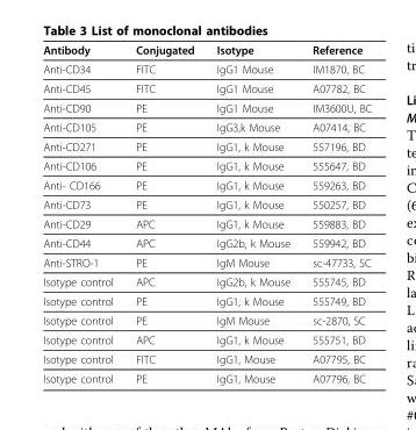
<table><thead><tr><td>Antibody</td><td>Conjugated</td><td>Isotype</td><td>Reference</td></tr></thead><tbody><tr><td>Anti-CD34</td><td>FITC</td><td>IgG1 Mouse</td><td>IM1870, BC</td></tr><tr><td>Anti-CD45</td><td>FITC</td><td>IgG1 Mouse</td><td>A07782, BC</td></tr><tr><td>Anti-CD90</td><td>PE</td><td>IgG1 Mouse</td><td>IM3600U, BC</td></tr><tr><td>Anti-CD105</td><td>PE</td><td>IgG3,k Mouse</td><td>A07414, BC</td></tr><tr><td>Anti-CD271</td><td>PE</td><td>IgG1, k Mouse</td><td>557196, BD</td></tr><tr><td>Anti-CD106</td><td>PE</td><td>IgG1, k Mouse</td><td>555647, BD</td></tr><tr><td>Anti- CD166</td><td>PE</td><td>IgG1, k Mouse</td><td>559263, BD</td></tr><tr><td>Anti-CD73</td><td>PE</td><td>IgG1, k Mouse</td><td>550257, BD</td></tr><tr><td>Anti-CD29</td><td>APC</td><td>IgG1, k Mouse</td><td>559883, BD</td></tr><tr><td>Anti-CD44</td><td>APC</td><td>IgG2b, k Mouse</td><td>559942, BD</td></tr><tr><td>Anti-STRO-1</td><td>PE</td><td>IgM Mouse</td><td>sc-47733, SC</td></tr><tr><td>Isotype control</td><td>APC</td><td>IgG2b, k Mouse</td><td>555745, BD</td></tr><tr><td>Isotype control</td><td>PE</td><td>IgG1, k Mouse</td><td>555749, BD</td></tr><tr><td>Isotype control</td><td>PE</td><td>IgM Mouse</td><td>sc-2870, SC</td></tr><tr><td>Isotype control</td><td>APC</td><td>IgG1, k Mouse</td><td>555751, BD</td></tr><tr><td>Isotype control</td><td>FITC</td><td>IgG1, Mouse</td><td>A07795, BC</td></tr><tr><td>Isotype control</td><td>PE</td><td>IgG1, Mouse</td><td>A07796, BC</td></tr></tbody></table>